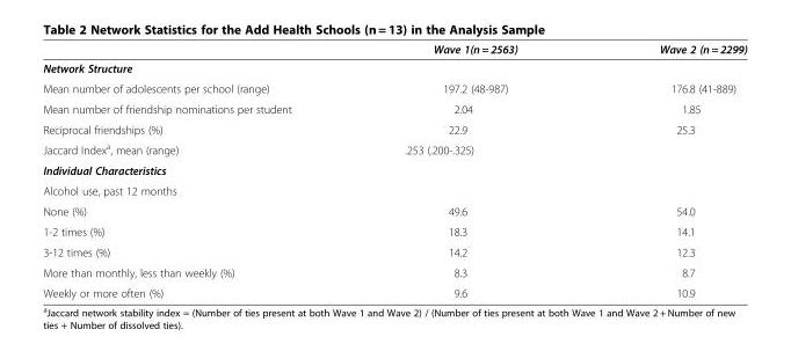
<table><thead><tr><td></td><td>Wave 1(n = 2563)</td><td>Wave 2 (n = 2299)</td></tr></thead><tbody><tr><td colspan="3">Network Structure</td></tr><tr><td>Mean number of adolescents per school (range)</td><td>197.2 (48-987)</td><td>176.8 (41-889)</td></tr><tr><td>Mean number of friendship nominations per student</td><td>2.04</td><td>1.85</td></tr><tr><td>Reciprocal friendships (%)</td><td>22.9</td><td>25.3</td></tr><tr><td>Jaccard Index<sup>a</sup>, mean (range)</td><td>.253 (.200-.325)</td><td></td></tr><tr><td colspan="3">Individual Characteristics</td></tr><tr><td colspan="3">Alcohol use, past 12 months</td></tr><tr><td>None (%)</td><td>49.6</td><td>54.0</td></tr><tr><td>1-2 times (%)</td><td>18.3</td><td>14.1</td></tr><tr><td>3-12 times (%)</td><td>14.2</td><td>12.3</td></tr><tr><td>More than monthly, less than weekly (%)</td><td>8.3</td><td>8.7</td></tr><tr><td>Weekly or more often (%)</td><td>9.6</td><td>10.9</td></tr></tbody></table>